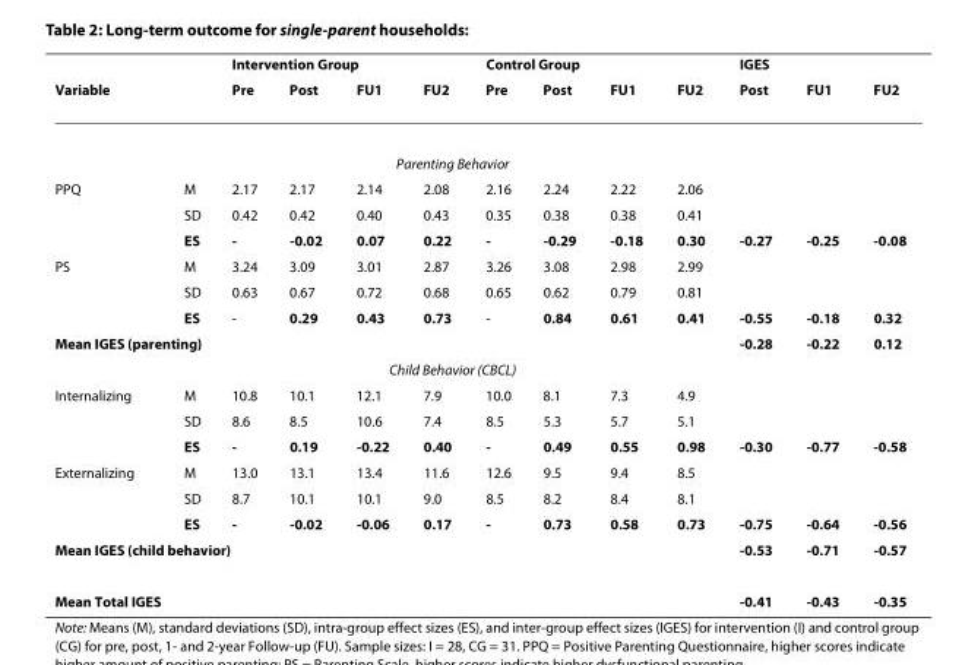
<table><thead><tr><td rowspan="2">Variable</td><td rowspan="2"></td><td colspan="4">Intervention Group</td><td colspan="4">Control Group</td><td colspan="3">IGES</td></tr><tr><td>Pre</td><td>Post</td><td>FU1</td><td>FU2</td><td>Pre</td><td>Post</td><td>FU1</td><td>FU2</td><td>Post</td><td>FU1</td><td>FU2</td></tr></thead><tbody><tr><td></td><td colspan="9">Parenting Behavior</td><td></td><td></td><td></td></tr><tr><td rowspan="3">PPQ</td><td>M</td><td>2.17</td><td>2.17</td><td>2.14</td><td>2.08</td><td>2.16</td><td>2.24</td><td>2.22</td><td>2.06</td><td></td><td></td><td></td></tr><tr><td>SD</td><td>0.42</td><td>0.42</td><td>0.40</td><td>0.43</td><td>0.35</td><td>0.38</td><td>0.38</td><td>0.41</td><td></td><td></td><td></td></tr><tr><td>ES</td><td>-</td><td>-0.02</td><td>0.07</td><td>0.22</td><td>-</td><td>-0.29</td><td>-0.18</td><td>0.30</td><td>-0.27</td><td>-0.25</td><td>-0.08</td></tr><tr><td rowspan="3">PS</td><td>M</td><td>3.24</td><td>3.09</td><td>3.01</td><td>2.87</td><td>3.26</td><td>3.08</td><td>2.98</td><td>2.99</td><td></td><td></td><td></td></tr><tr><td>SD</td><td>0.63</td><td>0.67</td><td>0.72</td><td>0.68</td><td>0.65</td><td>0.62</td><td>0.79</td><td>0.81</td><td></td><td></td><td></td></tr><tr><td>ES</td><td>-</td><td>0.29</td><td>0.43</td><td>0.73</td><td>-</td><td>0.84</td><td>0.61</td><td>0.41</td><td>-0.55</td><td>-0.18</td><td>0.32</td></tr><tr><td colspan="4">Mean IGES (parenting)</td><td></td><td></td><td></td><td></td><td></td><td></td><td>-0.28</td><td>-0.22</td><td>0.12</td></tr><tr><td></td><td colspan="9">Child Behavior (CBCL)</td><td></td><td></td><td></td></tr><tr><td rowspan="3">Internalizing</td><td>M</td><td>10.8</td><td>10.1</td><td>12.1</td><td>7.9</td><td>10.0</td><td>8.1</td><td>7.3</td><td>4.9</td><td></td><td></td><td></td></tr><tr><td>SD</td><td>8.6</td><td>8.5</td><td>10.6</td><td>7.4</td><td>8.5</td><td>5.3</td><td>5.7</td><td>5.1</td><td></td><td></td><td></td></tr><tr><td>ES</td><td>-</td><td>0.19</td><td>-0.22</td><td>0.40</td><td>-</td><td>0.49</td><td>0.55</td><td>0.98</td><td>-0.30</td><td>-0.77</td><td>-0.58</td></tr><tr><td rowspan="3">Externalizing</td><td>M</td><td>13.0</td><td>13.1</td><td>13.4</td><td>11.6</td><td>12.6</td><td>9.5</td><td>9.4</td><td>8.5</td><td></td><td></td><td></td></tr><tr><td>SD</td><td>8.7</td><td>10.1</td><td>10.1</td><td>9.0</td><td>8.5</td><td>8.2</td><td>8.4</td><td>8.1</td><td></td><td></td><td></td></tr><tr><td>ES</td><td>-</td><td>-0.02</td><td>-0.06</td><td>0.17</td><td>-</td><td>0.73</td><td>0.58</td><td>0.73</td><td>-0.75</td><td>-0.64</td><td>-0.56</td></tr><tr><td colspan="4">Mean IGES (child behavior)</td><td></td><td></td><td></td><td></td><td></td><td></td><td>-0.53</td><td>-0.71</td><td>-0.57</td></tr><tr><td colspan="4">Mean Total IGES</td><td></td><td></td><td></td><td></td><td></td><td></td><td>-0.41</td><td>-0.43</td><td>-0.35</td></tr></tbody></table>